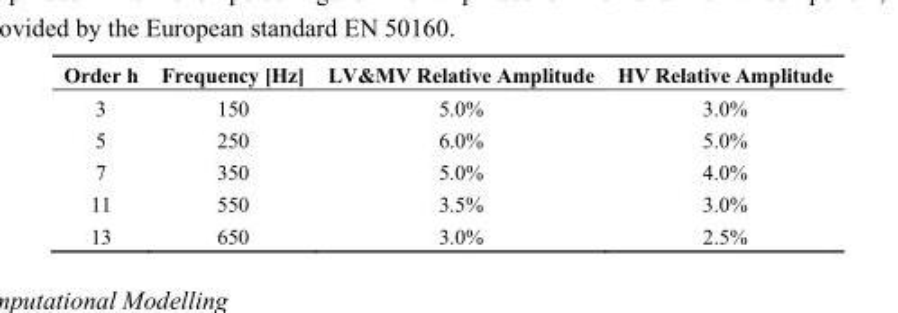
<table><thead><tr><td>Order h</td><td>Frequency [Hz]</td><td>LV&amp;MV Relative Amplitude</td><td>HV Relative Amplitude</td></tr></thead><tbody><tr><td>3</td><td>150</td><td>5.0%</td><td>3.0%</td></tr><tr><td>5</td><td>250</td><td>6.0%</td><td>5.0%</td></tr><tr><td>7</td><td>350</td><td>5.0%</td><td>4.0%</td></tr><tr><td>11</td><td>550</td><td>3.5%</td><td>3.0%</td></tr><tr><td>13</td><td>650</td><td>3.0%</td><td>2.5%</td></tr></tbody></table>